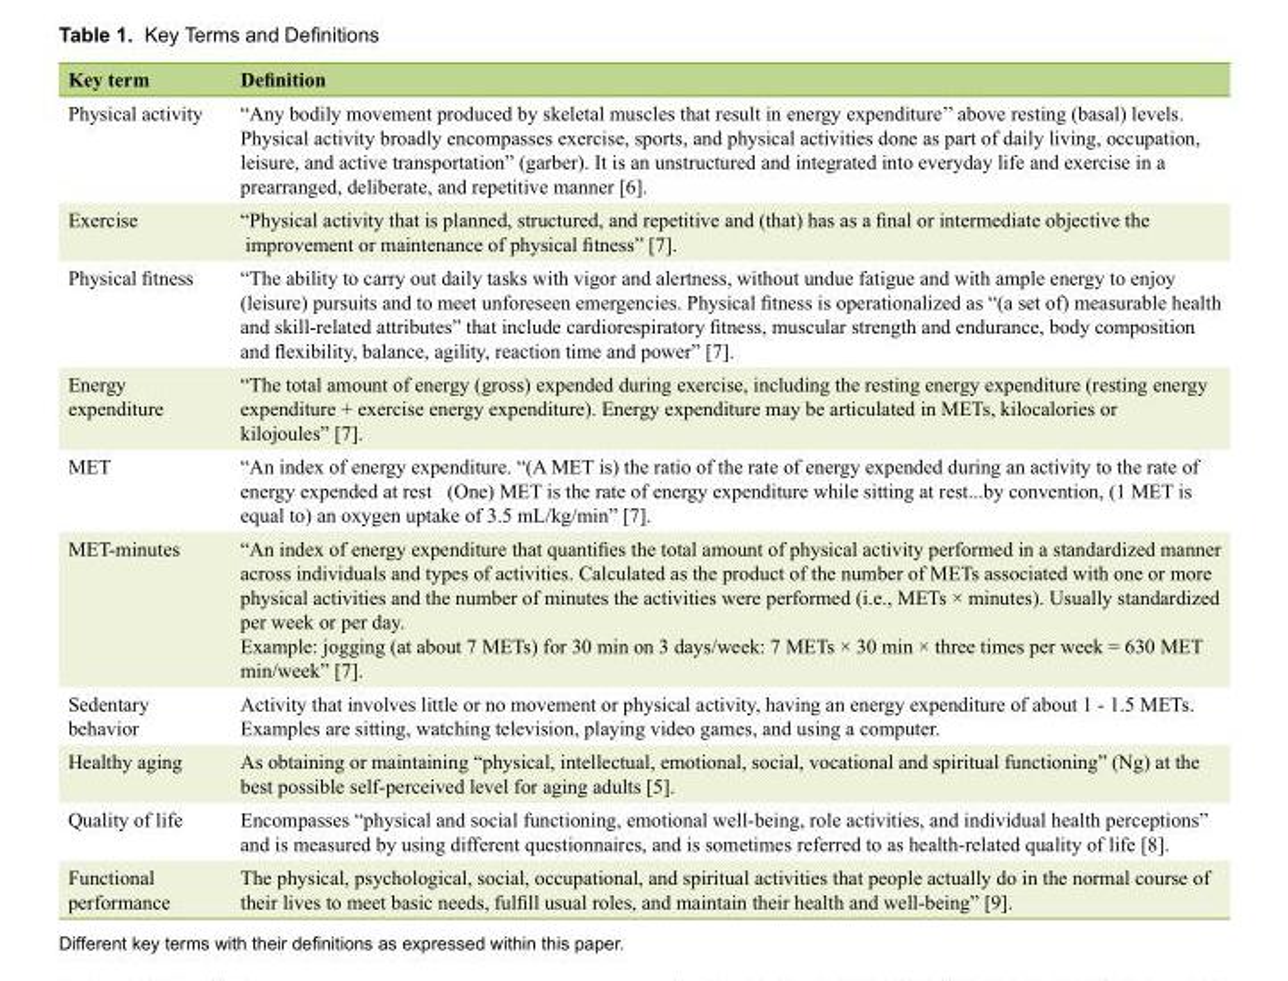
<table><thead><tr><td>Key term</td><td>Definition</td></tr></thead><tbody><tr><td>Physical activity</td><td>“Any bodily movement produced by skeletal muscles that result in energy expenditure’’ above resting (basal) levels. Physical activity broadly encompasses exercise, sports, and physical activities done as part of daily living, occupation, leisure, and active transportation” (garber). It is an unstructured and integrated into everyday life and exercise in a prearranged, deliberate, and repetitive manner [6].</td></tr><tr><td>Exercise</td><td>“Physical activity that is planned, structured, and repetitive and (that) has as a final or intermediate objective the improvement or maintenance of physical fitness” [7].</td></tr><tr><td>Physical fitness</td><td>“The ability to carry out daily tasks with vigor and alertness, without undue fatigue and with ample energy to enjoy (leisure) pursuits and to meet unforeseen emergencies. Physical fitness is operationalized as “(a set of) measurable health and skill-related attributes” that include cardiorespiratory fitness, muscular strength and endurance, body composition and flexibility, balance, agility, reaction time and power” [7].</td></tr><tr><td>Energy expenditure</td><td>“The total amount of energy (gross) expended during exercise, including the resting energy expenditure (resting energy expenditure + exercise energy expenditure). Energy expenditure may be articulated in METs, kilocalories or kilojoules” [7].</td></tr><tr><td>MET</td><td>“An index of energy expenditure. “(A MET is) the ratio of the rate of energy expended during an activity to the rate of energy expended at rest (One) MET is the rate of energy expenditure while sitting at rest...by convention, (1 MET is equal to) an oxygen uptake of 3.5 mL/kg/min” [7].</td></tr><tr><td>MET-minutes</td><td>“An index of energy expenditure that quantifies the total amount of physical activity performed in a standardized manner across individuals and types of activities. Calculated as the product of the number of METs associated with one or more physical activities and the number of minutes the activities were performed (i.e., METs × minutes). Usually standardized per week or per day. Example: jogging (at about 7 METs) for 30 min on 3 days/week: 7 METs × 30 min × three times per week = 630 MET min/week” [7].</td></tr><tr><td>Sedentary behavior</td><td>Activity that involves little or no movement or physical activity, having an energy expenditure of about 1 - 1.5 METs. Examples are sitting, watching television, playing video games, and using a computer.</td></tr><tr><td>Healthy aging</td><td>As obtaining or maintaining “physical, intellectual, emotional, social, vocational and spiritual functioning” (Ng) at the best possible self-perceived level for aging adults [5].</td></tr><tr><td>Quality of life</td><td>Encompasses “physical and social functioning, emotional well-being, role activities, and individual health perceptions” and is measured by using different questionnaires, and is sometimes referred to as health-related quality of life [8].</td></tr><tr><td>Functional performance</td><td>The physical, psychological, social, occupational, and spiritual activities that people actually do in the normal course of their lives to meet basic needs, fulfill usual roles, and maintain their health and well-being” [9].</td></tr></tbody></table>